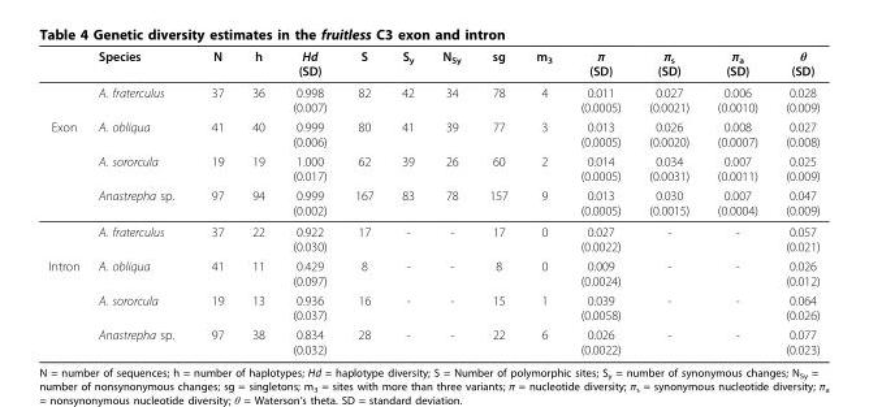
<table><thead><tr><td></td><td>Species</td><td>N</td><td>h</td><td>Hd (SD)</td><td>S</td><td>S<sub>y</sub></td><td>N<sub>Sy</sub></td><td>sg</td><td>m<sub>3</sub></td><td>π (SD)</td><td>π<sub>s</sub> (SD)</td><td>π<sub>a</sub> (SD)</td><td>θ (SD)</td></tr></thead><tbody><tr><td></td><td>A. fraterculus</td><td>37</td><td>36</td><td>0.998 (0.007)</td><td>82</td><td>42</td><td>34</td><td>78</td><td>4</td><td>0.011 (0.0005)</td><td>0.027 (0.0021)</td><td>0.006 (0.0010)</td><td>0.028 (0.009)</td></tr><tr><td rowspan="4">Exon</td><td>A. obliqua</td><td>41</td><td>40</td><td>0.999 (0.006)</td><td>80</td><td>41</td><td>39</td><td>77</td><td>3</td><td>0.013 (0.0005)</td><td>0.026 (0.0020)</td><td>0.008 (0.0007)</td><td>0.027 (0.008)</td></tr><tr><td>A. sororcula</td><td>19</td><td>19</td><td>1.000 (0.017)</td><td>62</td><td>39</td><td>26</td><td>60</td><td>2</td><td>0.014 (0.0005)</td><td>0.034 (0.0031)</td><td>0.007 (0.0011)</td><td>0.025 (0.009)</td></tr><tr><td>Anastrepha sp.</td><td>97</td><td>94</td><td>0.999 (0.002)</td><td>167</td><td>83</td><td>78</td><td>157</td><td>9</td><td>0.013 (0.0005)</td><td>0.030 (0.0015)</td><td>0.007 (0.0004)</td><td>0.047 (0.009)</td></tr><tr><td>A. fraterculus</td><td>37</td><td>22</td><td>0.922 (0.030)</td><td>17</td><td>-</td><td>-</td><td>17</td><td>0</td><td>0.027 (0.0022)</td><td>-</td><td>-</td><td>0.057 (0.021)</td></tr><tr><td rowspan="3">Intron</td><td>A. obliqua</td><td>41</td><td>11</td><td>0.429 (0.097)</td><td>8</td><td>-</td><td>-</td><td>8</td><td>0</td><td>0.009 (0.0024)</td><td>-</td><td>-</td><td>0.026 (0.012)</td></tr><tr><td>A. sororcula</td><td>19</td><td>13</td><td>0.936 (0.037)</td><td>16</td><td>-</td><td>-</td><td>15</td><td>1</td><td>0.039 (0.0058)</td><td>-</td><td>-</td><td>0.064 (0.026)</td></tr><tr><td>Anastrepha sp.</td><td>97</td><td>38</td><td>0.834 (0.032)</td><td>28</td><td>-</td><td>-</td><td>22</td><td>6</td><td>0.026 (0.0022)</td><td>-</td><td>-</td><td>0.077 (0.023)</td></tr></tbody></table>